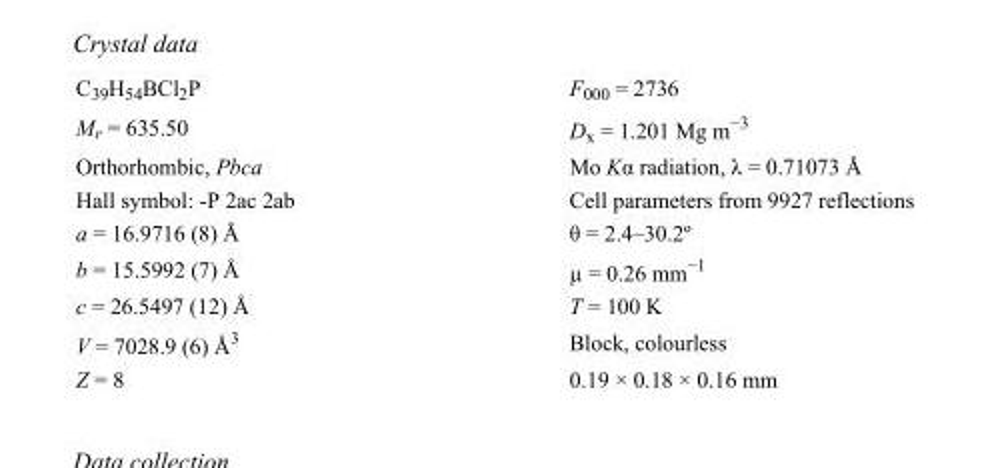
<table><tbody><tr><td>C<sub>39</sub>H<sub>54</sub>BCl<sub>2</sub>P</td><td>F000 = 2736</td></tr><tr><td>M<sub>r</sub> = 635.50</td><td>D<sub>x</sub> = 1.201 Mg m<sup>−3</sup></td></tr><tr><td>Orthorhombic, Pbca</td><td>Mo Kα radiation, λ = 0.71073 Å</td></tr><tr><td>Hall symbol: -P 2ac 2ab</td><td>Cell parameters from 9927 reflections</td></tr><tr><td>a = 16.9716 (8) Å</td><td>θ = 2.4–30.2º</td></tr><tr><td>b = 15.5992 (7) Å</td><td>µ = 0.26 mm<sup>−1</sup></td></tr><tr><td>c = 26.5497 (12) Å</td><td>T = 100 K</td></tr><tr><td>V = 7028.9 (6) Å<sup>3</sup></td><td>Block, colourless</td></tr><tr><td>Z = 8</td><td>0.19 × 0.18 × 0.16 mm</td></tr></tbody></table>